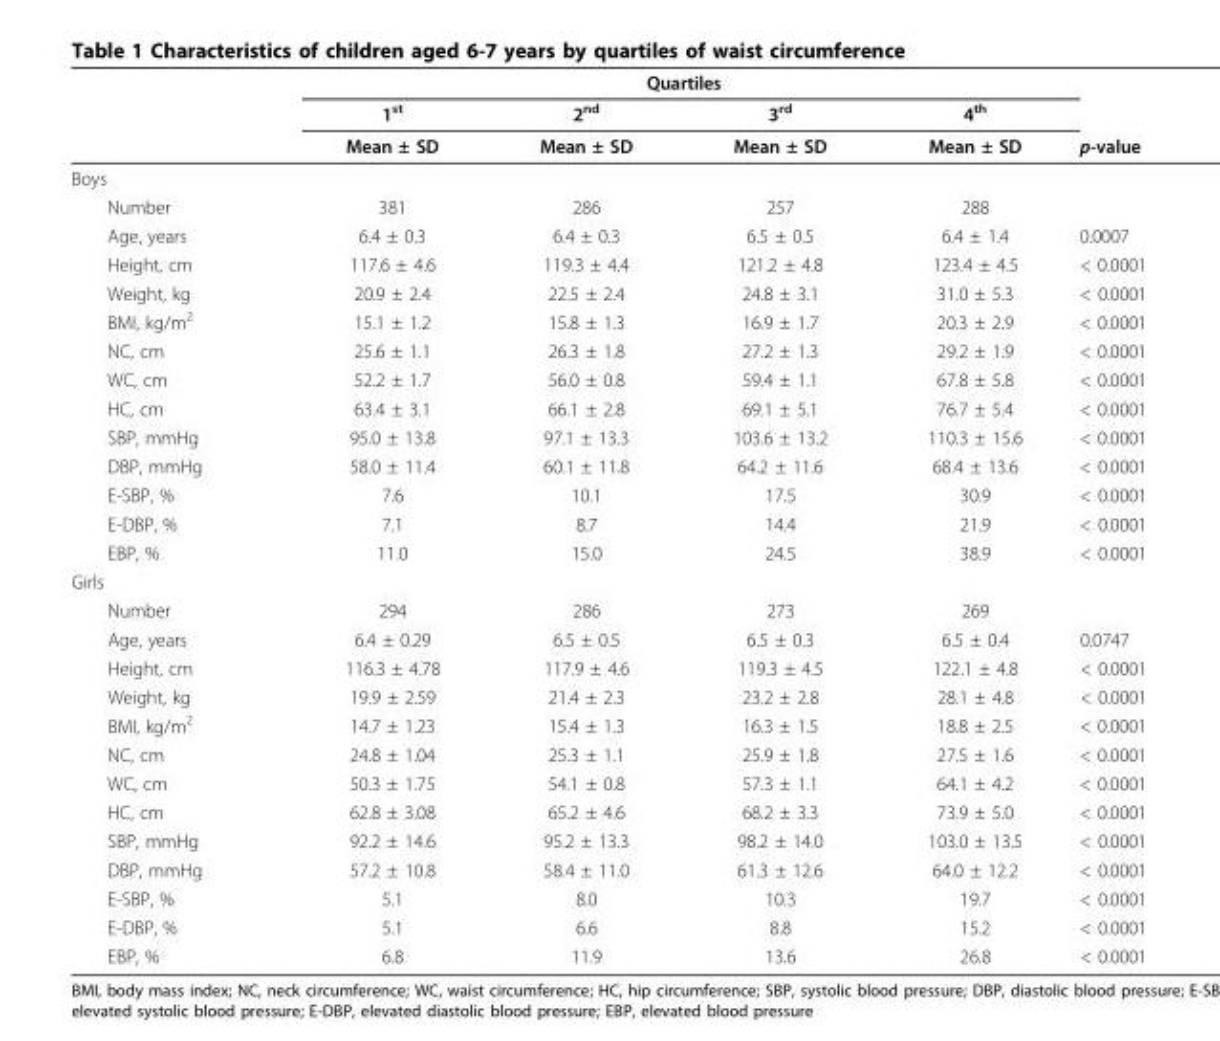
<table><thead><tr><td rowspan="3"></td><td colspan="4">Quartiles</td><td rowspan="3">p-value</td></tr><tr><td rowspan="2">1<sup>st</sup> Mean ± SD</td><td rowspan="2">2<sup>nd</sup> Mean ± SD</td><td rowspan="2">3<sup>rd</sup> Mean ± SD</td><td rowspan="2">4<sup>th</sup> Mean ± SD</td></tr><tr></tr></thead><tbody><tr><td colspan="6">Boys</td></tr><tr><td>Number</td><td>381</td><td>286</td><td>257</td><td>288</td><td></td></tr><tr><td>Age, years</td><td>6.4 ± 0.3</td><td>6.4 ± 0.3</td><td>6.5 ± 0.5</td><td>6.4 ± 1.4</td><td>0.0007</td></tr><tr><td>Height, cm</td><td>117.6 ± 4.6</td><td>119.3 ± 4.4</td><td>121.2 ± 4.8</td><td>123.4 ± 4.5</td><td>&lt; 0.0001</td></tr><tr><td>Weight, kg</td><td>20.9 ± 2.4</td><td>22.5 ± 2.4</td><td>24.8 ± 3.1</td><td>31.0 ± 5.3</td><td>&lt; 0.0001</td></tr><tr><td>BMI, kg/m<sup>2</sup></td><td>15.1 ± 1.2</td><td>15.8 ± 1.3</td><td>16.9 ± 1.7</td><td>20.3 ± 2.9</td><td>&lt; 0.0001</td></tr><tr><td>NC, cm</td><td>25.6 ± 1.1</td><td>26.3 ± 1.8</td><td>27.2 ± 1.3</td><td>29.2 ± 1.9</td><td>&lt; 0.0001</td></tr><tr><td>WC, cm</td><td>52.2 ± 1.7</td><td>56.0 ± 0.8</td><td>59.4 ± 1.1</td><td>67.8 ± 5.8</td><td>&lt; 0.0001</td></tr><tr><td>HC, cm</td><td>63.4 ± 3.1</td><td>66.1 ± 2.8</td><td>69.1 ± 5.1</td><td>76.7 ± 5.4</td><td>&lt; 0.0001</td></tr><tr><td>SBP, mmHg</td><td>95.0 ± 13.8</td><td>97.1 ± 13.3</td><td>103.6 ± 13.2</td><td>110.3 ± 15.6</td><td>&lt; 0.0001</td></tr><tr><td>DBP, mmHg</td><td>58.0 ± 11.4</td><td>60.1 ± 11.8</td><td>64.2 ± 11.6</td><td>68.4 ± 13.6</td><td>&lt; 0.0001</td></tr><tr><td>E-SBP, %</td><td>7.6</td><td>10.1</td><td>17.5</td><td>30.9</td><td>&lt; 0.0001</td></tr><tr><td>E-DBP, %</td><td>7.1</td><td>8.7</td><td>14.4</td><td>21.9</td><td>&lt; 0.0001</td></tr><tr><td>EBP, %</td><td>11.0</td><td>15.0</td><td>24.5</td><td>38.9</td><td>&lt; 0.0001</td></tr><tr><td colspan="6">Girls</td></tr><tr><td>Number</td><td>294</td><td>286</td><td>273</td><td>269</td><td></td></tr><tr><td>Age, years</td><td>6.4 ± 0.29</td><td>6.5 ± 0.5</td><td>6.5 ± 0.3</td><td>6.5 ± 0.4</td><td>0.0747</td></tr><tr><td>Height, cm</td><td>116.3 ± 4.78</td><td>117.9 ± 4.6</td><td>119.3 ± 4.5</td><td>122.1 ± 4.8</td><td>&lt; 0.0001</td></tr><tr><td>Weight, kg</td><td>19.9 ± 2.59</td><td>21.4 ± 2.3</td><td>23.2 ± 2.8</td><td>28.1 ± 4.8</td><td>&lt; 0.0001</td></tr><tr><td>BMI, kg/m<sup>2</sup></td><td>14.7 ± 1.23</td><td>15.4 ± 1.3</td><td>16.3 ± 1.5</td><td>18.8 ± 2.5</td><td>&lt; 0.0001</td></tr><tr><td>NC, cm</td><td>24.8 ± 1.04</td><td>25.3 ± 1.1</td><td>25.9 ± 1.8</td><td>27.5 ± 1.6</td><td>&lt; 0.0001</td></tr><tr><td>WC, cm</td><td>50.3 ± 1.75</td><td>54.1 ± 0.8</td><td>57.3 ± 1.1</td><td>64.1 ± 4.2</td><td>&lt; 0.0001</td></tr><tr><td>HC, cm</td><td>62.8 ± 3.08</td><td>65.2 ± 4.6</td><td>68.2 ± 3.3</td><td>73.9 ± 5.0</td><td>&lt; 0.0001</td></tr><tr><td>SBP, mmHg</td><td>92.2 ± 14.6</td><td>95.2 ± 13.3</td><td>98.2 ± 14.0</td><td>103.0 ± 13.5</td><td>&lt; 0.0001</td></tr><tr><td>DBP, mmHg</td><td>57.2 ± 10.8</td><td>58.4 ± 11.0</td><td>61.3 ± 12.6</td><td>64.0 ± 12.2</td><td>&lt; 0.0001</td></tr><tr><td>E-SBP, %</td><td>5.1</td><td>8.0</td><td>10.3</td><td>19.7</td><td>&lt; 0.0001</td></tr><tr><td>E-DBP, %</td><td>5.1</td><td>6.6</td><td>8.8</td><td>15.2</td><td>&lt; 0.0001</td></tr><tr><td>EBP, %</td><td>6.8</td><td>11.9</td><td>13.6</td><td>26.8</td><td>&lt; 0.0001</td></tr></tbody></table>